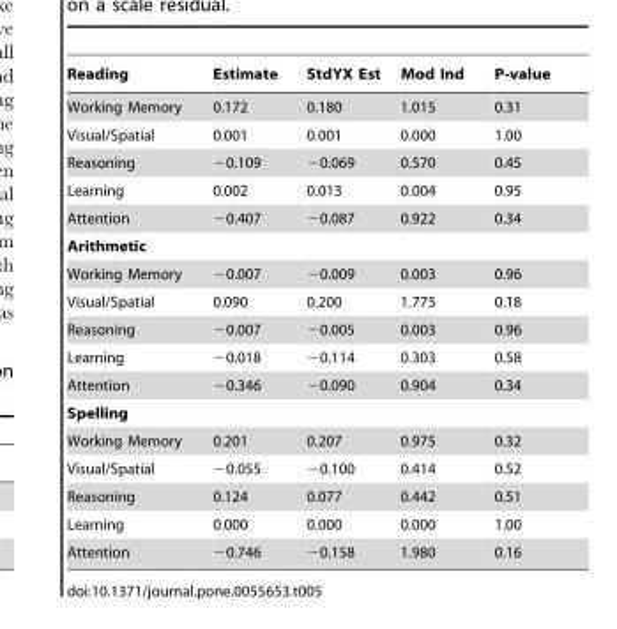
<table><thead><tr><td>Reading</td><td>Estimate</td><td>StdYX Est</td><td>Mod Ind</td><td>P-value</td></tr></thead><tbody><tr><td>Working Memory</td><td>0.172</td><td>0.180</td><td>1.015</td><td>0.31</td></tr><tr><td>Visual/Spatial</td><td>0.001</td><td>0.001</td><td>0.000</td><td>1.00</td></tr><tr><td>Reasoning</td><td>−0.109</td><td>−0.069</td><td>0.570</td><td>0.45</td></tr><tr><td>Learning</td><td>0.002</td><td>0.013</td><td>0.004</td><td>0.95</td></tr><tr><td>Attention</td><td>−0.407</td><td>−0.087</td><td>0.922</td><td>0.34</td></tr><tr><td colspan="5">Arithmetic</td></tr><tr><td>Working Memory</td><td>−0.007</td><td>−0.009</td><td>0.003</td><td>0.96</td></tr><tr><td>Visual/Spatial</td><td>0.090</td><td>0.200</td><td>1.775</td><td>0.18</td></tr><tr><td>Reasoning</td><td>−0.007</td><td>−0.005</td><td>0.003</td><td>0.96</td></tr><tr><td>Learning</td><td>−0.018</td><td>−0.114</td><td>0.303</td><td>0.58</td></tr><tr><td>Attention</td><td>−0.346</td><td>−0.090</td><td>0.904</td><td>0.34</td></tr><tr><td colspan="5">Spelling</td></tr><tr><td>Working Memory</td><td>0.201</td><td>0.207</td><td>0.975</td><td>0.32</td></tr><tr><td>Visual/Spatial</td><td>−0.055</td><td>−0.100</td><td>0.414</td><td>0.52</td></tr><tr><td>Reasoning</td><td>0.124</td><td>0.077</td><td>0.442</td><td>0.51</td></tr><tr><td>Learning</td><td>0.000</td><td>0.000</td><td>0.000</td><td>1.00</td></tr><tr><td>Attention</td><td>−0.746</td><td>−0.158</td><td>1.980</td><td>0.16</td></tr></tbody></table>